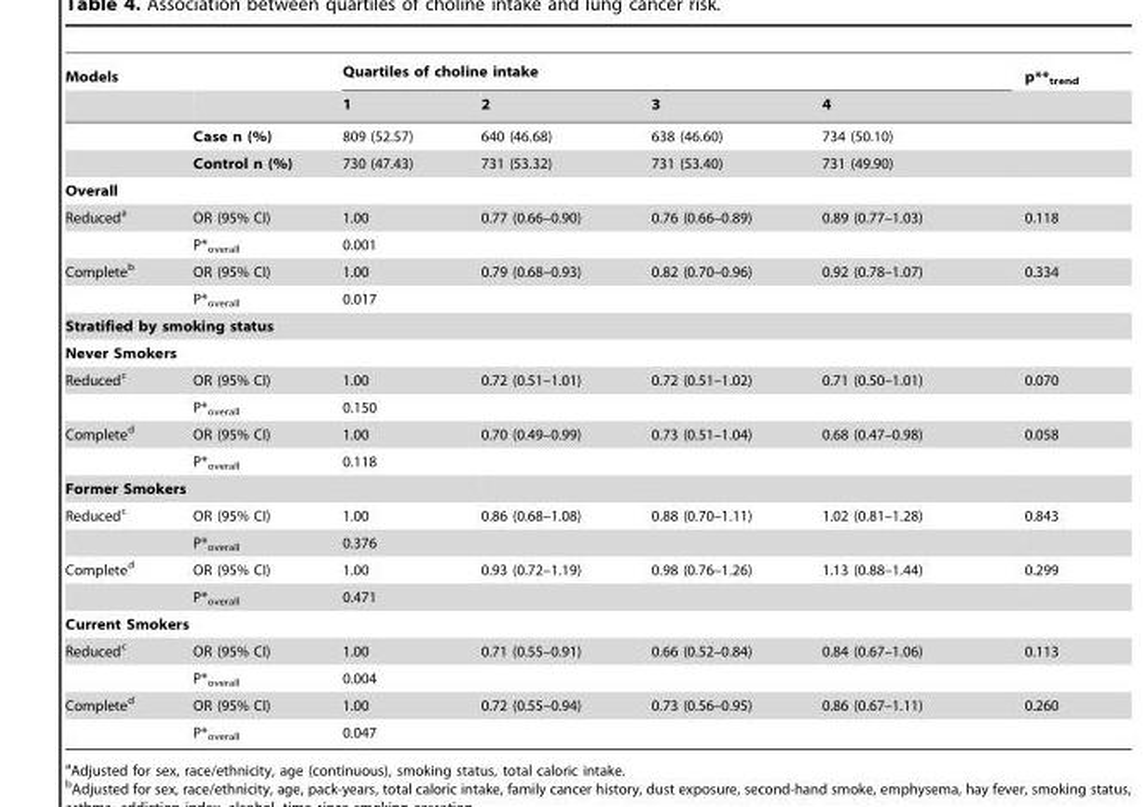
<table><thead><tr><td rowspan="2">Models</td><td rowspan="2"></td><td colspan="4">Quartiles of choline intake</td><td rowspan="2">p**<sub>trend</sub></td></tr><tr><td>1</td><td>2</td><td>3</td><td>4</td></tr></thead><tbody><tr><td></td><td>Case n (%)</td><td>809 (52.57)</td><td>640 (46.68)</td><td>638 (46.60)</td><td>734 (50.10)</td><td></td></tr><tr><td></td><td>Control n (%)</td><td>730 (47.43)</td><td>731 (53.32)</td><td>731 (53.40)</td><td>731 (49.90)</td><td></td></tr><tr><td colspan="7">Overall</td></tr><tr><td rowspan="2">Reduced<sup>a</sup></td><td>OR (95% CI)</td><td>1.00</td><td>0.77 (0.66–0.90)</td><td>0.76 (0.66–0.89)</td><td>0.89 (0.77–1.03)</td><td>0.118</td></tr><tr><td>P*<sub>overall</sub></td><td colspan="4">0.001</td><td></td></tr><tr><td rowspan="2">Complete<sup>b</sup></td><td>OR (95% CI)</td><td>1.00</td><td>0.79 (0.68–0.93)</td><td>0.82 (0.70–0.96)</td><td>0.92 (0.78–1.07)</td><td>0.334</td></tr><tr><td>P*<sub>overall</sub></td><td colspan="4">0.017</td><td></td></tr><tr><td colspan="7">Stratified by smoking status</td></tr><tr><td colspan="7">Never Smokers</td></tr><tr><td rowspan="2">Reduced<sup>c</sup></td><td>OR (95% CI)</td><td>1.00</td><td>0.72 (0.51–1.01)</td><td>0.72 (0.51–1.02)</td><td>0.71 (0.50–1.01)</td><td>0.070</td></tr><tr><td>P*<sub>overall</sub></td><td colspan="4">0.150</td><td></td></tr><tr><td rowspan="2">Complete<sup>d</sup></td><td>OR (95% CI)</td><td>1.00</td><td>0.70 (0.49–0.99)</td><td>0.73 (0.51–1.04)</td><td>0.68 (0.47–0.98)</td><td>0.058</td></tr><tr><td>P*<sub>overall</sub></td><td colspan="4">0.118</td><td></td></tr><tr><td colspan="7">Former Smokers</td></tr><tr><td rowspan="2">Reduced<sup>c</sup></td><td>OR (95% CI)</td><td>1.00</td><td>0.86 (0.68–1.08)</td><td>0.88 (0.70–1.11)</td><td>1.02 (0.81–1.28)</td><td>0.843</td></tr><tr><td>P*<sub>overall</sub></td><td colspan="4">0.376</td><td></td></tr><tr><td rowspan="2">Complete<sup>d</sup></td><td>OR (95% CI)</td><td>1.00</td><td>0.93 (0.72–1.19)</td><td>0.98 (0.76–1.26)</td><td>1.13 (0.88–1.44)</td><td>0.299</td></tr><tr><td>P*<sub>overall</sub></td><td colspan="4">0.471</td><td></td></tr><tr><td colspan="7">Current Smokers</td></tr><tr><td rowspan="2">Reduced<sup>c</sup></td><td>OR (95% CI)</td><td>1.00</td><td>0.71 (0.55–0.91)</td><td>0.66 (0.52–0.84)</td><td>0.84 (0.67–1.06)</td><td>0.113</td></tr><tr><td>P*<sub>overall</sub></td><td colspan="4">0.004</td><td></td></tr><tr><td rowspan="2">Complete<sup>d</sup></td><td>OR (95% CI)</td><td>1.00</td><td>0.72 (0.55–0.94)</td><td>0.73 (0.56–0.95)</td><td>0.86 (0.67–1.11)</td><td>0.260</td></tr><tr><td>P*<sub>overall</sub></td><td colspan="4">0.047</td><td></td></tr></tbody></table>